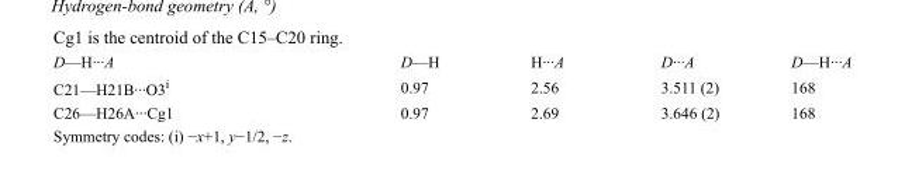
<table><tbody><tr><td>D—H···A</td><td>D—H</td><td>H···A</td><td>D···A</td><td>D—H···A</td></tr><tr><td>C21—H21B···O3<sup>i</sup></td><td>0.97</td><td>2.56</td><td>3.511 (2)</td><td>168</td></tr><tr><td>C26—H26A···Cg1</td><td>0.97</td><td>2.69</td><td>3.646 (2)</td><td>168</td></tr></tbody></table>